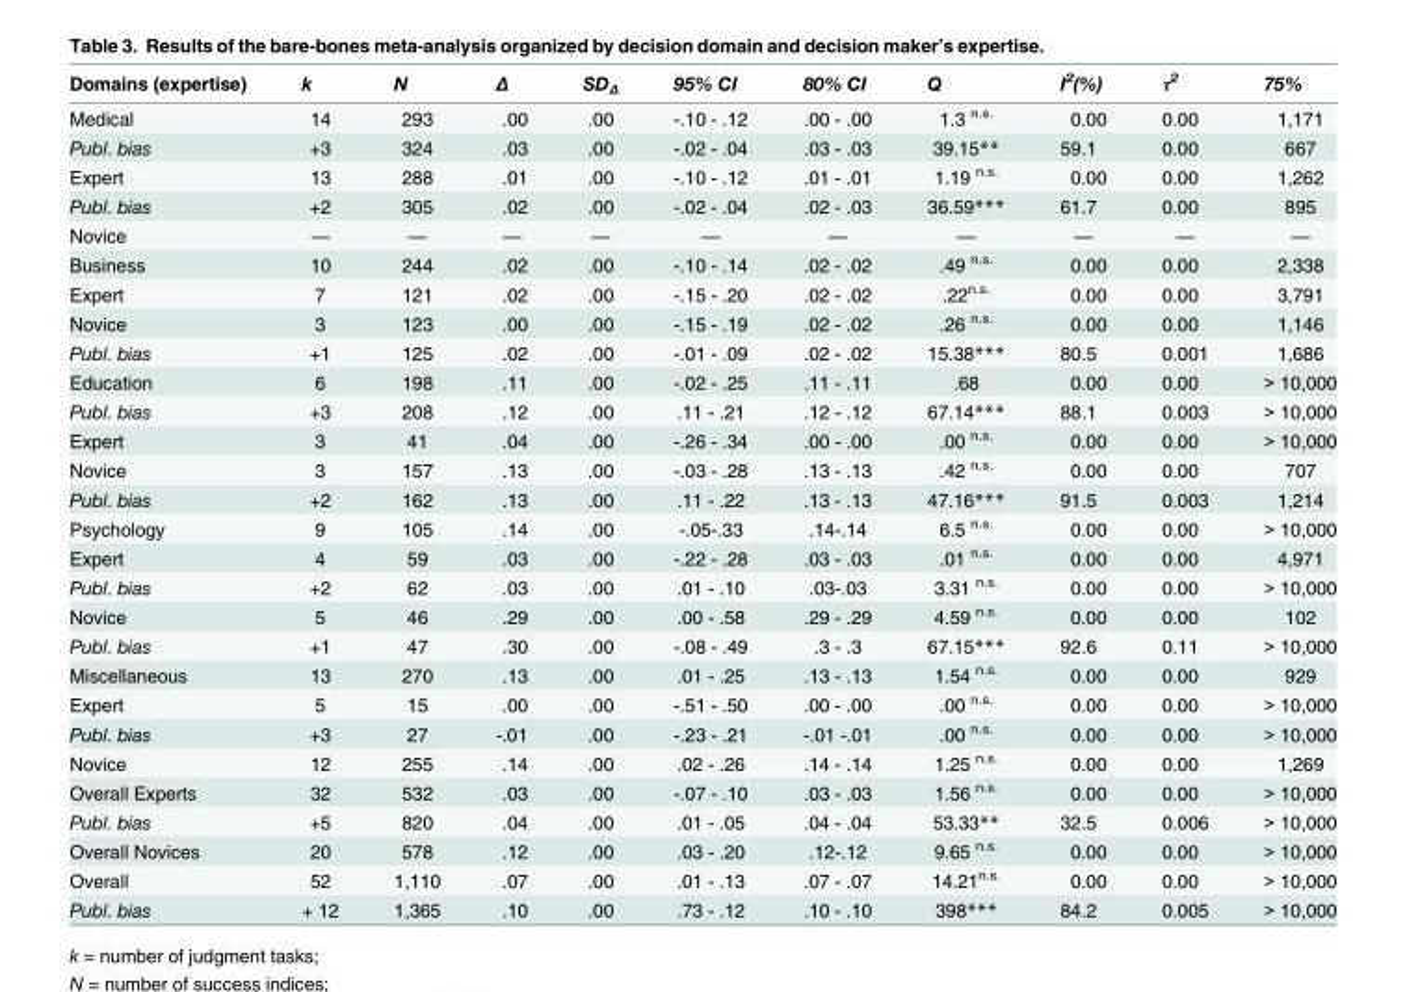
<table><thead><tr><td>Domains (expertise)</td><td>k</td><td>N</td><td>Δ</td><td>SD<sub>Δ</sub></td><td>95% CI</td><td>80% CI</td><td>Q</td><td>I<sup>2</sup>(%)</td><td>τ<sup>2</sup></td><td>75%</td></tr></thead><tbody><tr><td>Medical</td><td>14</td><td>293</td><td>.00</td><td>.00</td><td>-.10 - .12</td><td>.00 - .00</td><td>1.3 <sup>n.s.</sup></td><td>0.00</td><td>0.00</td><td>1,171</td></tr><tr><td>Publ. bias</td><td>+3</td><td>324</td><td>.03</td><td>.00</td><td>-.02 - .04</td><td>.03 - .03</td><td>39.15**</td><td>59.1</td><td>0.00</td><td>667</td></tr><tr><td>Expert</td><td>13</td><td>288</td><td>.01</td><td>.00</td><td>-.10 - .12</td><td>.01 - .01</td><td>1.19 <sup>n.s.</sup></td><td>0.00</td><td>0.00</td><td>1,262</td></tr><tr><td>Publ. bias</td><td>+2</td><td>305</td><td>.02</td><td>.00</td><td>-.02 - .04</td><td>.02 - .03</td><td>36.59***</td><td>61.7</td><td>0.00</td><td>895</td></tr><tr><td>Novice</td><td>—</td><td>—</td><td>—</td><td>—</td><td>—</td><td>—</td><td>—</td><td>—</td><td>—</td><td>—</td></tr><tr><td>Business</td><td>10</td><td>244</td><td>.02</td><td>.00</td><td>-.10 - .14</td><td>.02 - .02</td><td>.49 <sup>n.s.</sup></td><td>0.00</td><td>0.00</td><td>2,338</td></tr><tr><td>Expert</td><td>7</td><td>121</td><td>.02</td><td>.00</td><td>-.15 - .20</td><td>.02 - .02</td><td>.22<sup>n.s.</sup></td><td>0.00</td><td>0.00</td><td>3,791</td></tr><tr><td>Novice</td><td>3</td><td>123</td><td>.00</td><td>.00</td><td>-.15 - .19</td><td>.02 - .02</td><td>.26 <sup>n.s.</sup></td><td>0.00</td><td>0.00</td><td>1,146</td></tr><tr><td>Publ. bias</td><td>+1</td><td>125</td><td>.02</td><td>.00</td><td>-.01 - .09</td><td>.02 - .02</td><td>15.38***</td><td>80.5</td><td>0.001</td><td>1,686</td></tr><tr><td>Education</td><td>6</td><td>198</td><td>.11</td><td>.00</td><td>-.02 - .25</td><td>.11 - .11</td><td>.68</td><td>0.00</td><td>0.00</td><td>&gt; 10,000</td></tr><tr><td>Publ. bias</td><td>+3</td><td>208</td><td>.12</td><td>.00</td><td>.11 - .21</td><td>.12 - .12</td><td>67.14***</td><td>88.1</td><td>0.003</td><td>&gt; 10,000</td></tr><tr><td>Expert</td><td>3</td><td>41</td><td>.04</td><td>.00</td><td>-.26 - .34</td><td>.00 - .00</td><td>.00 <sup>n.s.</sup></td><td>0.00</td><td>0.00</td><td>&gt; 10,000</td></tr><tr><td>Novice</td><td>3</td><td>157</td><td>.13</td><td>.00</td><td>-.03 - .28</td><td>.13 - .13</td><td>.42 <sup>n.s.</sup></td><td>0.00</td><td>0.00</td><td>707</td></tr><tr><td>Publ. bias</td><td>+2</td><td>162</td><td>.13</td><td>.00</td><td>.11 - .22</td><td>.13 - .13</td><td>47.16***</td><td>91.5</td><td>0.003</td><td>1,214</td></tr><tr><td>Psychology</td><td>9</td><td>105</td><td>.14</td><td>.00</td><td>-.05-.33</td><td>.14-.14</td><td>6.5 <sup>n.s.</sup></td><td>0.00</td><td>0.00</td><td>&gt; 10,000</td></tr><tr><td>Expert</td><td>4</td><td>59</td><td>.03</td><td>.00</td><td>-.22 - .28</td><td>.03 - .03</td><td>.01 <sup>n.s.</sup></td><td>0.00</td><td>0.00</td><td>4,971</td></tr><tr><td>Publ. bias</td><td>+2</td><td>62</td><td>.03</td><td>.00</td><td>.01 - .10</td><td>.03-.03</td><td>3.31 <sup>n.s.</sup></td><td>0.00</td><td>0.00</td><td>&gt; 10,000</td></tr><tr><td>Novice</td><td>5</td><td>46</td><td>.29</td><td>.00</td><td>.00 - .58</td><td>.29 - .29</td><td>4.59 <sup>n.s.</sup></td><td>0.00</td><td>0.00</td><td>102</td></tr><tr><td>Publ. bias</td><td>+1</td><td>47</td><td>.30</td><td>.00</td><td>-.08 - .49</td><td>.3 - .3</td><td>67.15***</td><td>92.6</td><td>0.11</td><td>&gt; 10,000</td></tr><tr><td>Miscellaneous</td><td>13</td><td>270</td><td>.13</td><td>.00</td><td>.01 - .25</td><td>.13 - .13</td><td>1.54 <sup>n.s.</sup></td><td>0.00</td><td>0.00</td><td>929</td></tr><tr><td>Expert</td><td>5</td><td>15</td><td>.00</td><td>.00</td><td>-.51 - .50</td><td>.00 - .00</td><td>.00 <sup>n.s.</sup></td><td>0.00</td><td>0.00</td><td>&gt; 10,000</td></tr><tr><td>Publ. bias</td><td>+3</td><td>27</td><td>-.01</td><td>.00</td><td>-.23 - .21</td><td>-.01 -.01</td><td>.00 <sup>n.s.</sup></td><td>0.00</td><td>0.00</td><td>&gt; 10,000</td></tr><tr><td>Novice</td><td>12</td><td>255</td><td>.14</td><td>.00</td><td>.02 - .26</td><td>.14 - .14</td><td>1.25 <sup>n.s.</sup></td><td>0.00</td><td>0.00</td><td>1,269</td></tr><tr><td>Overall Experts</td><td>32</td><td>532</td><td>.03</td><td>.00</td><td>-.07 - .10</td><td>.03 - .03</td><td>1.56 <sup>n.s.</sup></td><td>0.00</td><td>0.00</td><td>&gt; 10,000</td></tr><tr><td>Publ. bias</td><td>+5</td><td>820</td><td>.04</td><td>.00</td><td>.01 - .05</td><td>.04 - .04</td><td>53.33**</td><td>32.5</td><td>0.006</td><td>&gt; 10,000</td></tr><tr><td>Overall Novices</td><td>20</td><td>578</td><td>.12</td><td>.00</td><td>.03 - .20</td><td>.12-.12</td><td>9.65 <sup>n.s.</sup></td><td>0.00</td><td>0.00</td><td>&gt; 10,000</td></tr><tr><td>Overall</td><td>52</td><td>1,110</td><td>.07</td><td>.00</td><td>.01 - .13</td><td>.07 - .07</td><td>14.21<sup>n.s.</sup></td><td>0.00</td><td>0.00</td><td>&gt; 10,000</td></tr><tr><td>Publ. bias</td><td>+ 12</td><td>1,365</td><td>.10</td><td>.00</td><td>.73 - .12</td><td>.10 - .10</td><td>398***</td><td>84.2</td><td>0.005</td><td>&gt; 10,000</td></tr></tbody></table>